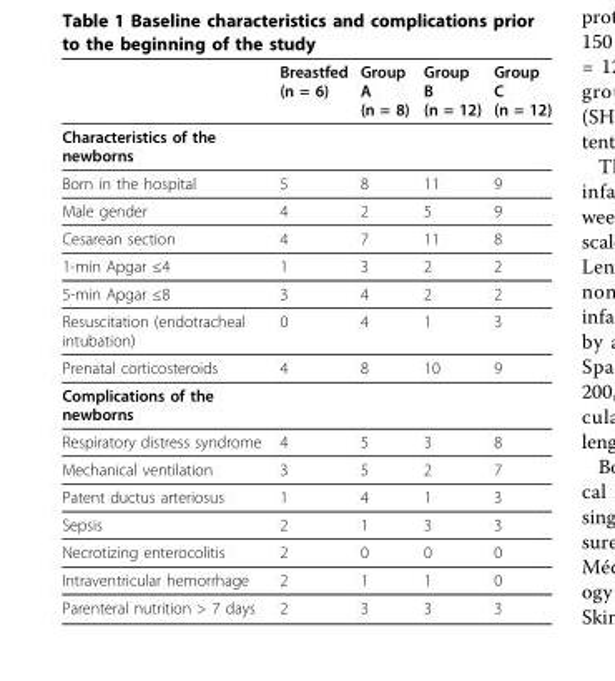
<table><thead><tr><td></td><td>Breastfed (n = 6)</td><td>Group A (n = 8)</td><td>Group B (n = 12)</td><td>Group C (n = 12)</td></tr></thead><tbody><tr><td colspan="5">Characteristics of the newborns</td></tr><tr><td>Born in the hospital</td><td>5</td><td>8</td><td>11</td><td>9</td></tr><tr><td>Male gender</td><td>4</td><td>2</td><td>5</td><td>9</td></tr><tr><td>Cesarean section</td><td>4</td><td>7</td><td>11</td><td>8</td></tr><tr><td>1-min Apgar ≤4</td><td>1</td><td>3</td><td>2</td><td>2</td></tr><tr><td>5-min Apgar ≤8</td><td>3</td><td>4</td><td>2</td><td>2</td></tr><tr><td>Resuscitation (endotracheal intubation)</td><td>0</td><td>4</td><td>1</td><td>3</td></tr><tr><td>Prenatal corticosteroids</td><td>4</td><td>8</td><td>10</td><td>9</td></tr><tr><td colspan="5">Complications of the newborns</td></tr><tr><td>Respiratory distress syndrome</td><td>4</td><td>5</td><td>3</td><td>8</td></tr><tr><td>Mechanical ventilation</td><td>3</td><td>5</td><td>2</td><td>7</td></tr><tr><td>Patent ductus arteriosus</td><td>1</td><td>4</td><td>1</td><td>3</td></tr><tr><td>Sepsis</td><td>2</td><td>1</td><td>3</td><td>3</td></tr><tr><td>Necrotizing enterocolitis</td><td>2</td><td>0</td><td>0</td><td>0</td></tr><tr><td>Intraventricular hemorrhage</td><td>2</td><td>1</td><td>1</td><td>0</td></tr><tr><td>Parenteral nutrition &gt; 7 days</td><td>2</td><td>3</td><td>3</td><td>3</td></tr></tbody></table>